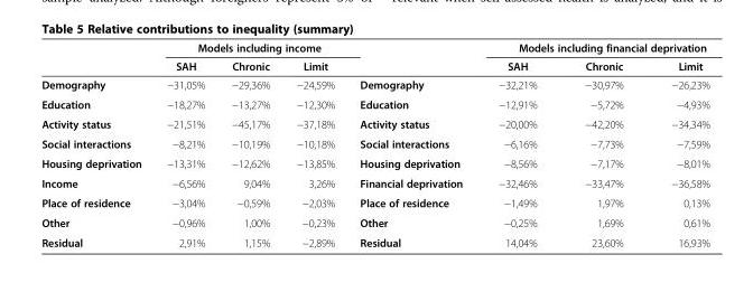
<table><thead><tr><td rowspan="2"></td><td colspan="3">Models including income</td><td rowspan="2"></td><td colspan="3">Models including financial deprivation</td></tr><tr><td>SAH</td><td>Chronic</td><td>Limit</td><td>SAH</td><td>Chronic</td><td>Limit</td></tr></thead><tbody><tr><td>Demography</td><td>−31,05%</td><td>−29,36%</td><td>−24,59%</td><td>Demography</td><td>−32,21%</td><td>−30,97%</td><td>−26,23%</td></tr><tr><td>Education</td><td>−18,27%</td><td>−13,27%</td><td>−12,30%</td><td>Education</td><td>−12,91%</td><td>−5,72%</td><td>−4,93%</td></tr><tr><td>Activity status</td><td>−21,51%</td><td>−45,17%</td><td>−37,18%</td><td>Activity status</td><td>−20,00%</td><td>−42,20%</td><td>−34,34%</td></tr><tr><td>Social interactions</td><td>−8,21%</td><td>−10,19%</td><td>−10,18%</td><td>Social interactions</td><td>−6,16%</td><td>−7,73%</td><td>−7,59%</td></tr><tr><td>Housing deprivation</td><td>−13,31%</td><td>−12,62%</td><td>−13,85%</td><td>Housing deprivation</td><td>−8,56%</td><td>−7,17%</td><td>−8,01%</td></tr><tr><td>Income</td><td>−6,56%</td><td>9,04%</td><td>3,26%</td><td>Financial deprivation</td><td>−32,46%</td><td>−33,47%</td><td>−36,58%</td></tr><tr><td>Place of residence</td><td>−3,04%</td><td>−0,59%</td><td>−2,03%</td><td>Place of residence</td><td>−1,49%</td><td>1,97%</td><td>0,13%</td></tr><tr><td>Other</td><td>−0,96%</td><td>1,00%</td><td>−0,23%</td><td>Other</td><td>−0,25%</td><td>1,69%</td><td>0,61%</td></tr><tr><td>Residual</td><td>2,91%</td><td>1,15%</td><td>−2,89%</td><td>Residual</td><td>14,04%</td><td>23,60%</td><td>16,93%</td></tr></tbody></table>